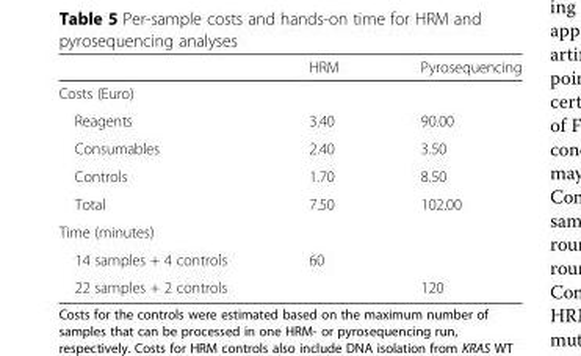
<table><thead><tr><td></td><td>HRM</td><td>Pyrosequencing</td></tr></thead><tbody><tr><td colspan="3">Costs (Euro)</td></tr><tr><td>Reagents</td><td>3.40</td><td>90.00</td></tr><tr><td>Consumables</td><td>2.40</td><td>3.50</td></tr><tr><td>Controls</td><td>1.70</td><td>8.50</td></tr><tr><td>Total</td><td>7.50</td><td>102.00</td></tr><tr><td colspan="3">Time (minutes)</td></tr><tr><td>14 samples + 4 controls</td><td>60</td><td></td></tr><tr><td>22 samples + 2 controls</td><td></td><td>120</td></tr></tbody></table>